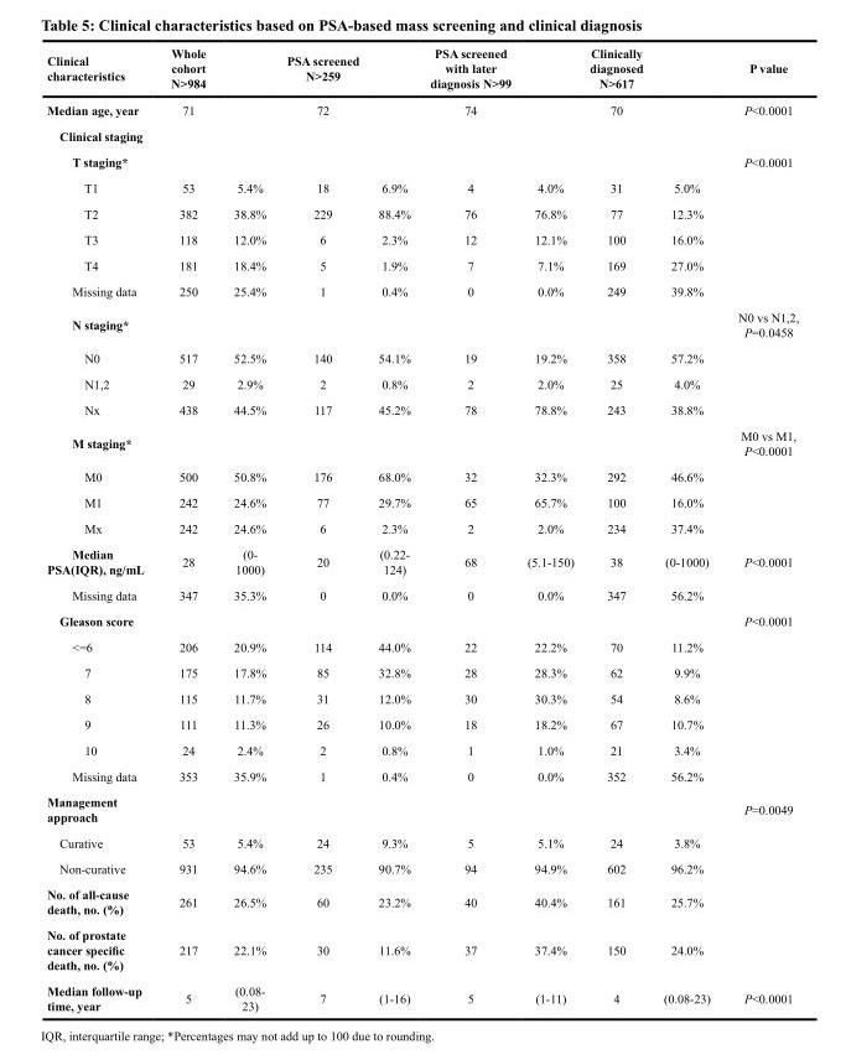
<table><thead><tr><td>Clinical characteristics</td><td>Whole cohort N&gt;984</td><td></td><td>PSA screened N&gt;259</td><td></td><td>PSA screened with later diagnosis N&gt;99</td><td></td><td>Clinically diagnosed N&gt;617</td><td></td><td>P value</td></tr></thead><tbody><tr><td>Median age, year</td><td>71</td><td></td><td>72</td><td></td><td>74</td><td></td><td>70</td><td></td><td>P&lt;0.0001</td></tr><tr><td colspan="10">Clinical staging</td></tr><tr><td>T staging*</td><td></td><td></td><td></td><td></td><td></td><td></td><td></td><td></td><td>P&lt;0.0001</td></tr><tr><td>T1</td><td>53</td><td>5.4%</td><td>18</td><td>6.9%</td><td>4</td><td>4.0%</td><td>31</td><td>5.0%</td><td></td></tr><tr><td>T2</td><td>382</td><td>38.8%</td><td>229</td><td>88.4%</td><td>76</td><td>76.8%</td><td>77</td><td>12.3%</td><td></td></tr><tr><td>T3</td><td>118</td><td>12.0%</td><td>6</td><td>2.3%</td><td>12</td><td>12.1%</td><td>100</td><td>16.0%</td><td></td></tr><tr><td>T4</td><td>181</td><td>18.4%</td><td>5</td><td>1.9%</td><td>7</td><td>7.1%</td><td>169</td><td>27.0%</td><td></td></tr><tr><td>Missing data</td><td>250</td><td>25.4%</td><td>1</td><td>0.4%</td><td>0</td><td>0.0%</td><td>249</td><td>39.8%</td><td></td></tr><tr><td>N staging*</td><td></td><td></td><td></td><td></td><td></td><td></td><td></td><td></td><td>N0 vs N1,2, P=0.0458</td></tr><tr><td>N0</td><td>517</td><td>52.5%</td><td>140</td><td>54.1%</td><td>19</td><td>19.2%</td><td>358</td><td>57.2%</td><td></td></tr><tr><td>N1,2</td><td>29</td><td>2.9%</td><td>2</td><td>0.8%</td><td>2</td><td>2.0%</td><td>25</td><td>4.0%</td><td></td></tr><tr><td>Nx</td><td>438</td><td>44.5%</td><td>117</td><td>45.2%</td><td>78</td><td>78.8%</td><td>243</td><td>38.8%</td><td></td></tr><tr><td>M staging*</td><td></td><td></td><td></td><td></td><td></td><td></td><td></td><td></td><td>M0 vs M1, P&lt;0.0001</td></tr><tr><td>M0</td><td>500</td><td>50.8%</td><td>176</td><td>68.0%</td><td>32</td><td>32.3%</td><td>292</td><td>46.6%</td><td></td></tr><tr><td>M1</td><td>242</td><td>24.6%</td><td>77</td><td>29.7%</td><td>65</td><td>65.7%</td><td>100</td><td>16.0%</td><td></td></tr><tr><td>Mx</td><td>242</td><td>24.6%</td><td>6</td><td>2.3%</td><td>2</td><td>2.0%</td><td>234</td><td>37.4%</td><td></td></tr><tr><td>Median PSA(IQR), ng/mL</td><td>28</td><td>(0- 1000)</td><td>20</td><td>(0.22- 124)</td><td>68</td><td>(5.1-150)</td><td>38</td><td>(0-1000)</td><td>P&lt;0.0001</td></tr><tr><td>Missing data</td><td>347</td><td>35.3%</td><td>0</td><td>0.0%</td><td>0</td><td>0.0%</td><td>347</td><td>56.2%</td><td></td></tr><tr><td>Gleason score</td><td></td><td></td><td></td><td></td><td></td><td></td><td></td><td></td><td>P&lt;0.0001</td></tr><tr><td>&lt;=6</td><td>206</td><td>20.9%</td><td>114</td><td>44.0%</td><td>22</td><td>22.2%</td><td>70</td><td>11.2%</td><td></td></tr><tr><td>7</td><td>175</td><td>17.8%</td><td>85</td><td>32.8%</td><td>28</td><td>28.3%</td><td>62</td><td>9.9%</td><td></td></tr><tr><td>8</td><td>115</td><td>11.7%</td><td>31</td><td>12.0%</td><td>30</td><td>30.3%</td><td>54</td><td>8.6%</td><td></td></tr><tr><td>9</td><td>111</td><td>11.3%</td><td>26</td><td>10.0%</td><td>18</td><td>18.2%</td><td>67</td><td>10.7%</td><td></td></tr><tr><td>10</td><td>24</td><td>2.4%</td><td>2</td><td>0.8%</td><td>1</td><td>1.0%</td><td>21</td><td>3.4%</td><td></td></tr><tr><td>Missing data</td><td>353</td><td>35.9%</td><td>1</td><td>0.4%</td><td>0</td><td>0.0%</td><td>352</td><td>56.2%</td><td></td></tr><tr><td>Management approach</td><td></td><td></td><td></td><td></td><td></td><td></td><td></td><td></td><td>P=0.0049</td></tr><tr><td>Curative</td><td>53</td><td>5.4%</td><td>24</td><td>9.3%</td><td>5</td><td>5.1%</td><td>24</td><td>3.8%</td><td></td></tr><tr><td>Non-curative</td><td>931</td><td>94.6%</td><td>235</td><td>90.7%</td><td>94</td><td>94.9%</td><td>602</td><td>96.2%</td><td></td></tr><tr><td>No. of all-cause death, no. (%)</td><td>261</td><td>26.5%</td><td>60</td><td>23.2%</td><td>40</td><td>40.4%</td><td>161</td><td>25.7%</td><td></td></tr><tr><td>No. of prostate cancer specific death, no. (%)</td><td>217</td><td>22.1%</td><td>30</td><td>11.6%</td><td>37</td><td>37.4%</td><td>150</td><td>24.0%</td><td></td></tr><tr><td>Median follow-up time, year</td><td>5</td><td>(0.08- 23)</td><td>7</td><td>(1-16)</td><td>5</td><td>(1-11)</td><td>4</td><td>(0.08-23)</td><td>P&lt;0.0001</td></tr></tbody></table>